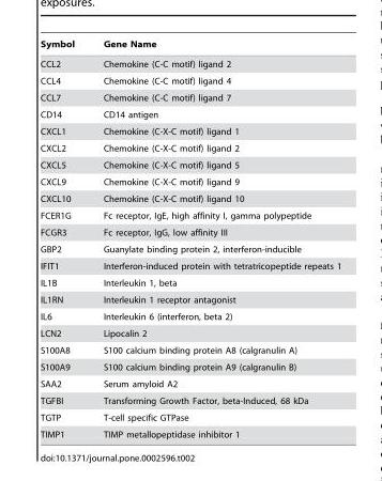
<table><thead><tr><td>Symbol</td><td>Gene Name</td></tr></thead><tbody><tr><td>CCL2</td><td>Chemokine (C-C motif) ligand 2</td></tr><tr><td>CCL4</td><td>Chemokine (C-C motif) ligand 4</td></tr><tr><td>CCL7</td><td>Chemokine (C-C motif) ligand 7</td></tr><tr><td>CD14</td><td>CD14 antigen</td></tr><tr><td>CXCL1</td><td>Chemokine (C-X-C motif) ligand 1</td></tr><tr><td>CXCL2</td><td>Chemokine (C-X-C motif) ligand 2</td></tr><tr><td>CXCL5</td><td>Chemokine (C-X-C motif) ligand 5</td></tr><tr><td>CXCL9</td><td>Chemokine (C-X-C motif) ligand 9</td></tr><tr><td>CXCL10</td><td>Chemokine (C-X-C motif) ligand 10</td></tr><tr><td>FCER1G</td><td>Fc receptor, IgE, high affinity I, gamma polypeptide</td></tr><tr><td>FCGR3</td><td>Fc receptor, IgG, low affinity III</td></tr><tr><td>GBP2</td><td>Guanylate binding protein 2, interferon-inducible</td></tr><tr><td>IFIT1</td><td>Interferon-induced protein with tetratricopeptide repeats 1</td></tr><tr><td>IL1B</td><td>Interleukin 1, beta</td></tr><tr><td>IL1RN</td><td>Interleukin 1 receptor antagonist</td></tr><tr><td>IL6</td><td>Interleukin 6 (interferon, beta 2)</td></tr><tr><td>LCN2</td><td>Lipocalin 2</td></tr><tr><td>S100A8</td><td>S100 calcium binding protein A8 (calgranulin A)</td></tr><tr><td>S100A9</td><td>S100 calcium binding protein A9 (calgranulin B)</td></tr><tr><td>SAA2</td><td>Serum amyloid A2</td></tr><tr><td>TGFBI</td><td>Transforming Growth Factor, beta-Induced, 68 kDa</td></tr><tr><td>TGTP</td><td>T-cell specific GTPase</td></tr><tr><td>TIMP1</td><td>TIMP metallopeptidase inhibitor 1</td></tr></tbody></table>